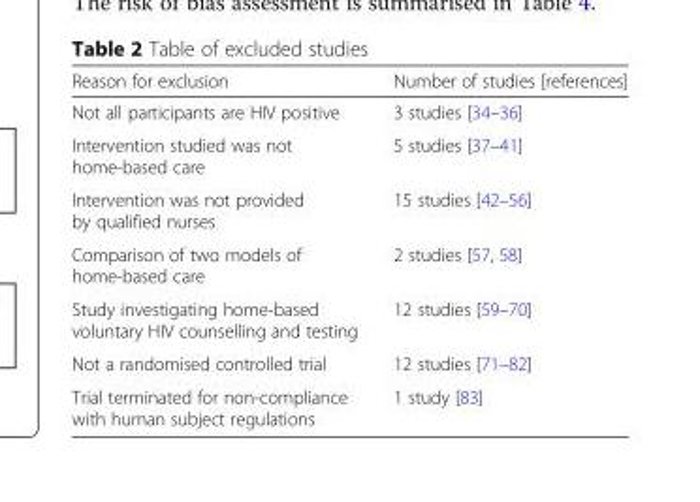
<table><thead><tr><td>Reason for exclusion</td><td>Number of studies [references]</td></tr></thead><tbody><tr><td>Not all participants are HIV positive</td><td>3 studies [34–36]</td></tr><tr><td>Intervention studied was not home-based care</td><td>5 studies [37–41]</td></tr><tr><td>Intervention was not provided by qualified nurses</td><td>15 studies [42–56]</td></tr><tr><td>Comparison of two models of home-based care</td><td>2 studies [57, 58]</td></tr><tr><td>Study investigating home-based voluntary HIV counselling and testing</td><td>12 studies [59–70]</td></tr><tr><td>Not a randomised controlled trial</td><td>12 studies [71–82]</td></tr><tr><td>Trial terminated for non-compliance with human subject regulations</td><td>1 study [83]</td></tr></tbody></table>